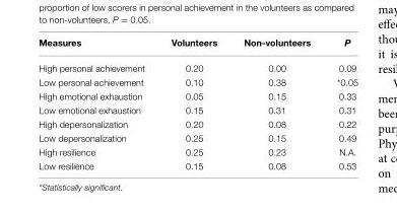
<table><thead><tr><td>Measures</td><td>Volunteers</td><td>Non-volunteers</td><td>P</td></tr></thead><tbody><tr><td>High personal achievement</td><td>0.20</td><td>0.00</td><td>0.09</td></tr><tr><td>Low personal achievement</td><td>0.10</td><td>0.38</td><td>*0.05</td></tr><tr><td>High emotional exhaustion</td><td>0.05</td><td>0.15</td><td>0.33</td></tr><tr><td>Low emotional exhaustion</td><td>0.15</td><td>0.31</td><td>0.31</td></tr><tr><td>High depersonalization</td><td>0.20</td><td>0.08</td><td>0.22</td></tr><tr><td>Low depersonalization</td><td>0.25</td><td>0.15</td><td>0.49</td></tr><tr><td>High resilience</td><td>0.25</td><td>0.23</td><td>N.A.</td></tr><tr><td>Low resilience</td><td>0.15</td><td>0.08</td><td>0.53</td></tr></tbody></table>